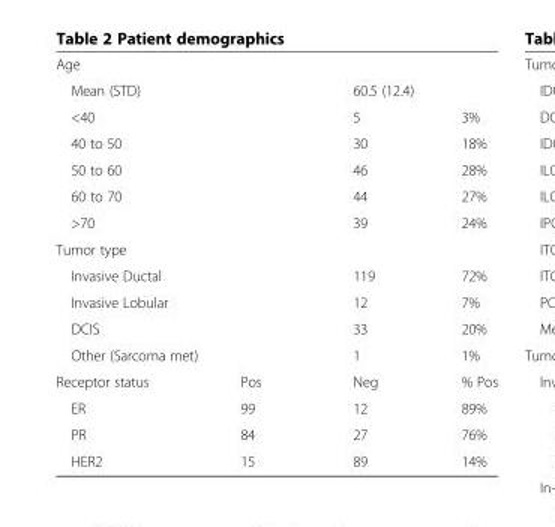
<table><tbody><tr><td colspan="4">Age</td></tr><tr><td colspan="2">Mean (STD)</td><td colspan="2">60.5 (12.4)</td></tr><tr><td colspan="2">&lt;40</td><td>5</td><td>3%</td></tr><tr><td colspan="2">40 to 50</td><td>30</td><td>18%</td></tr><tr><td colspan="2">50 to 60</td><td>46</td><td>28%</td></tr><tr><td colspan="2">60 to 70</td><td>44</td><td>27%</td></tr><tr><td colspan="2">&gt;70</td><td>39</td><td>24%</td></tr><tr><td colspan="4">Tumor type</td></tr><tr><td colspan="2">Invasive Ductal</td><td>119</td><td>72%</td></tr><tr><td colspan="2">Invasive Lobular</td><td>12</td><td>7%</td></tr><tr><td colspan="2">DCIS</td><td>33</td><td>20%</td></tr><tr><td colspan="2">Other (Sarcoma met)</td><td>1</td><td>1%</td></tr><tr><td>Receptor status</td><td>Pos</td><td>Neg</td><td>% Pos</td></tr><tr><td>ER</td><td>99</td><td>12</td><td>89%</td></tr><tr><td>PR</td><td>84</td><td>27</td><td>76%</td></tr><tr><td>HER2</td><td>15</td><td>89</td><td>14%</td></tr></tbody></table>